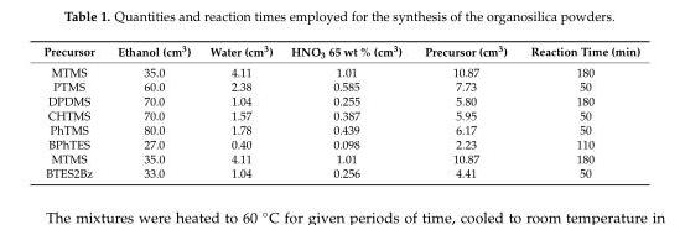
<table><thead><tr><td>Precursor</td><td>Ethanol (cm3)</td><td>Water (cm3)</td><td>HNO3 65 wt % (cm3)</td><td>Precursor (cm3)</td><td>Reaction Time (min)</td></tr></thead><tbody><tr><td>MTMS</td><td>35.0</td><td>4.11</td><td>1.01</td><td>10.87</td><td>180</td></tr><tr><td>PTMS</td><td>60.0</td><td>2.38</td><td>0.585</td><td>7.73</td><td>50</td></tr><tr><td>DPDMS</td><td>70.0</td><td>1.04</td><td>0.255</td><td>5.80</td><td>180</td></tr><tr><td>CHTMS</td><td>70.0</td><td>1.57</td><td>0.387</td><td>5.95</td><td>50</td></tr><tr><td>PhTMS</td><td>80.0</td><td>1.78</td><td>0.439</td><td>6.17</td><td>50</td></tr><tr><td>BPhTES</td><td>27.0</td><td>0.40</td><td>0.098</td><td>2.23</td><td>110</td></tr><tr><td>MTMS</td><td>35.0</td><td>4.11</td><td>1.01</td><td>10.87</td><td>180</td></tr><tr><td>BTES2Bz</td><td>33.0</td><td>1.04</td><td>0.256</td><td>4.41</td><td>50</td></tr></tbody></table>